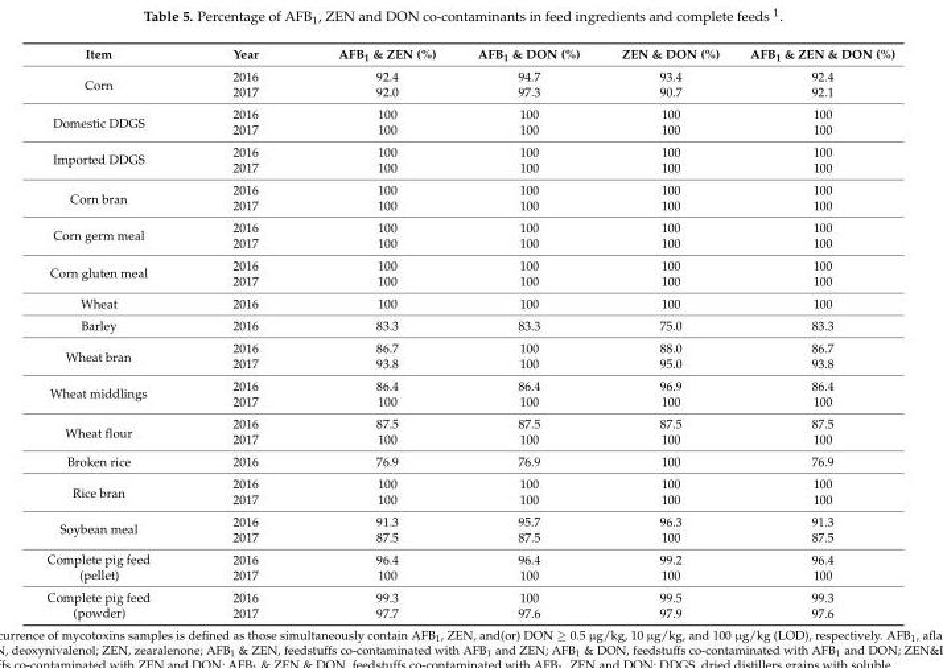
<table><thead><tr><td>Item</td><td>Year</td><td>AFB<sub>1</sub> &amp; ZEN (%)</td><td>AFB<sub>1</sub> &amp; DON (%)</td><td>ZEN &amp; DON (%)</td><td>AFB<sub>1</sub> &amp; ZEN &amp; DON (%)</td></tr></thead><tbody><tr><td rowspan="2">Corn</td><td>2016</td><td>92.4</td><td>94.7</td><td>93.4</td><td>92.4</td></tr><tr><td>2017</td><td>92.0</td><td>97.3</td><td>90.7</td><td>92.1</td></tr><tr><td rowspan="2">Domestic DDGS</td><td>2016</td><td>100</td><td>100</td><td>100</td><td>100</td></tr><tr><td>2017</td><td>100</td><td>100</td><td>100</td><td>100</td></tr><tr><td rowspan="2">Imported DDGS</td><td>2016</td><td>100</td><td>100</td><td>100</td><td>100</td></tr><tr><td>2017</td><td>100</td><td>100</td><td>100</td><td>100</td></tr><tr><td rowspan="2">Corn bran</td><td>2016</td><td>100</td><td>100</td><td>100</td><td>100</td></tr><tr><td>2017</td><td>100</td><td>100</td><td>100</td><td>100</td></tr><tr><td rowspan="2">Corn germ meal</td><td>2016</td><td>100</td><td>100</td><td>100</td><td>100</td></tr><tr><td>2017</td><td>100</td><td>100</td><td>100</td><td>100</td></tr><tr><td rowspan="2">Corn gluten meal</td><td>2016</td><td>100</td><td>100</td><td>100</td><td>100</td></tr><tr><td>2017</td><td>100</td><td>100</td><td>100</td><td>100</td></tr><tr><td>Wheat</td><td>2016</td><td>100</td><td>100</td><td>100</td><td>100</td></tr><tr><td>Barley</td><td>2016</td><td>83.3</td><td>83.3</td><td>75.0</td><td>83.3</td></tr><tr><td rowspan="2">Wheat bran</td><td>2016</td><td>86.7</td><td>100</td><td>88.0</td><td>86.7</td></tr><tr><td>2017</td><td>93.8</td><td>100</td><td>95.0</td><td>93.8</td></tr><tr><td rowspan="2">Wheat middlings</td><td>2016</td><td>86.4</td><td>86.4</td><td>96.9</td><td>86.4</td></tr><tr><td>2017</td><td>100</td><td>100</td><td>100</td><td>100</td></tr><tr><td rowspan="2">Wheat flour</td><td>2016</td><td>87.5</td><td>87.5</td><td>87.5</td><td>87.5</td></tr><tr><td>2017</td><td>100</td><td>100</td><td>100</td><td>100</td></tr><tr><td>Broken rice</td><td>2016</td><td>76.9</td><td>76.9</td><td>100</td><td>76.9</td></tr><tr><td rowspan="2">Rice bran</td><td>2016</td><td>100</td><td>100</td><td>100</td><td>100</td></tr><tr><td>2017</td><td>100</td><td>100</td><td>100</td><td>100</td></tr><tr><td rowspan="2">Soybean meal</td><td>2016</td><td>91.3</td><td>95.7</td><td>96.3</td><td>91.3</td></tr><tr><td>2017</td><td>87.5</td><td>87.5</td><td>100</td><td>87.5</td></tr><tr><td rowspan="2">Complete pig feed (pellet)</td><td>2016</td><td>96.4</td><td>96.4</td><td>99.2</td><td>96.4</td></tr><tr><td>2017</td><td>100</td><td>100</td><td>100</td><td>100</td></tr><tr><td rowspan="2">Complete pig feed (powder)</td><td>2016</td><td>99.3</td><td>100</td><td>99.5</td><td>99.3</td></tr><tr><td>2017</td><td>97.7</td><td>97.6</td><td>97.9</td><td>97.6</td></tr></tbody></table>